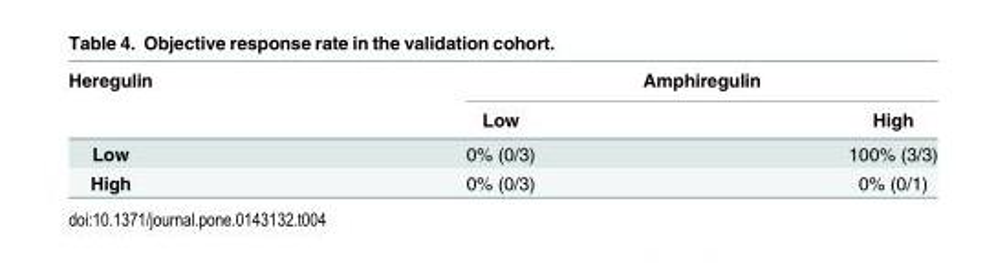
<table><thead><tr><td rowspan="2">Heregulin</td><td colspan="2">Amphiregulin</td></tr><tr><td>Low</td><td>High</td></tr></thead><tbody><tr><td>Low</td><td>0% (0/3)</td><td>100% (3/3)</td></tr><tr><td>High</td><td>0% (0/3)</td><td>0% (0/1)</td></tr></tbody></table>